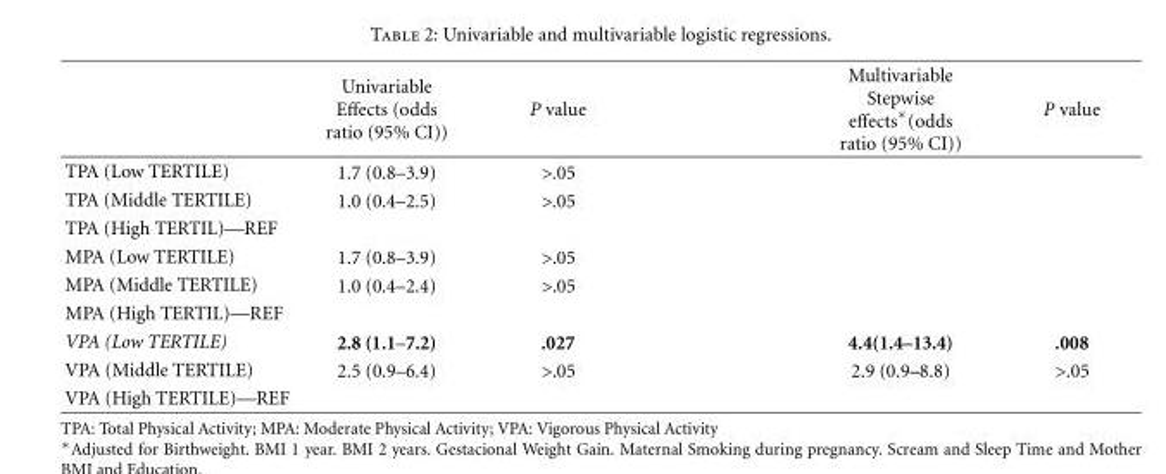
<table><thead><tr><td></td><td>Univariable Effects (odds ratio (95% CI))</td><td>P value</td><td>Multivariable Stepwise effects∗(odds ratio (95% CI))</td><td>P value</td></tr></thead><tbody><tr><td>TPA (Low TERTILE)</td><td>1.7 (0.8–3.9)</td><td>&gt;.05</td><td></td><td></td></tr><tr><td>TPA (Middle TERTILE)</td><td>1.0 (0.4–2.5)</td><td>&gt;.05</td><td></td><td></td></tr><tr><td colspan="5">TPA (High TERTIL)—REF</td></tr><tr><td>MPA (Low TERTILE)</td><td>1.7 (0.8–3.9)</td><td>&gt;.05</td><td></td><td></td></tr><tr><td>MPA (Middle TERTILE)</td><td>1.0 (0.4–2.4)</td><td>&gt;.05</td><td></td><td></td></tr><tr><td colspan="5">MPA (High TERTIL)—REF</td></tr><tr><td>VPA (Low TERTILE)</td><td>2.8 (1.1–7.2)</td><td>.027</td><td>4.4(1.4–13.4)</td><td>.008</td></tr><tr><td>VPA (Middle TERTILE)</td><td>2.5 (0.9–6.4)</td><td>&gt;.05</td><td>2.9 (0.9–8.8)</td><td>&gt;.05</td></tr><tr><td>VPA (High TERTILE)—REF</td><td></td><td></td><td></td><td></td></tr></tbody></table>